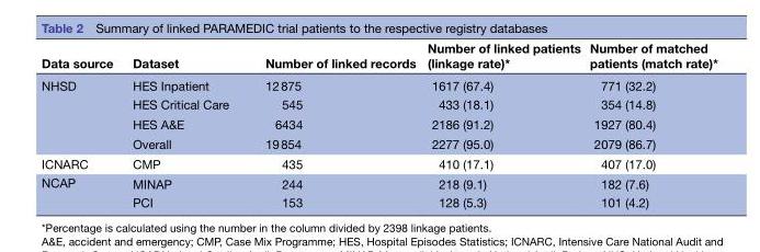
<table><thead><tr><td>Data source</td><td>Dataset</td><td>Number of linked records</td><td>Number of linked patients (linkage rate)*</td><td>Number of matched patients (match rate)*</td></tr></thead><tbody><tr><td rowspan="4">NHSD</td><td>HES Inpatient</td><td>12 875</td><td>1617 (67.4)</td><td>771 (32.2)</td></tr><tr><td>HES Critical Care</td><td>545</td><td>433 (18.1)</td><td>354 (14.8)</td></tr><tr><td>HES A&amp;E</td><td>6434</td><td>2186 (91.2)</td><td>1927 (80.4)</td></tr><tr><td>Overall</td><td>19 854</td><td>2277 (95.0)</td><td>2079 (86.7)</td></tr><tr><td>ICNARC</td><td>CMP</td><td>435</td><td>410 (17.1)</td><td>407 (17.0)</td></tr><tr><td rowspan="2">NCAP</td><td>MINAP</td><td>244</td><td>218 (9.1)</td><td>182 (7.6)</td></tr><tr><td>PCI</td><td>153</td><td>128 (5.3)</td><td>101 (4.2)</td></tr></tbody></table>